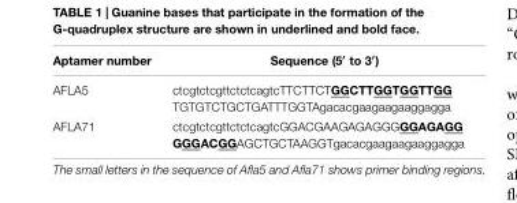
<table><thead><tr><td>Aptamer number</td><td>Sequence (5′ to 3′)</td></tr></thead><tbody><tr><td>AFLA5</td><td>ctcgtctcgttctctcagtcTTCTTCTGGCTTGGTGGTTGG TGTGTCTGCTGATTTGGTAgacacgaagaagaaggagga</td></tr><tr><td>AFLA71</td><td>ctcgtctcgttctctcagtcGGACGAAGAGAGGGGGAGAGG GGGACGGAGCTGCTAAGGTgacacgaagaagaaggagga</td></tr></tbody></table>